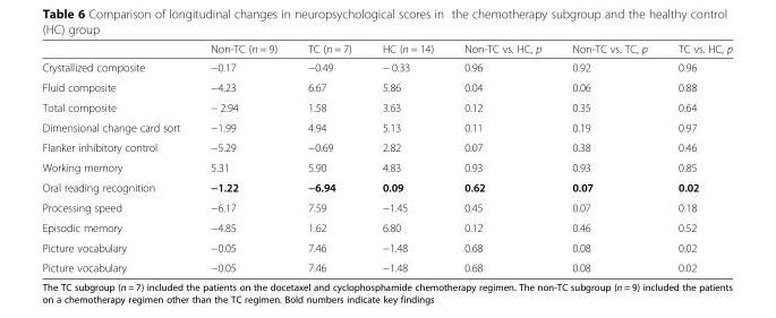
<table><thead><tr><td></td><td>Non-TC (n = 9)</td><td>TC (n = 7)</td><td>HC (n = 14)</td><td>Non-TC vs. HC, p</td><td>Non-TC vs. TC, p</td><td>TC vs. HC, p</td></tr></thead><tbody><tr><td>Crystallized composite</td><td>−0.17</td><td>−0.49</td><td>− 0.33</td><td>0.96</td><td>0.92</td><td>0.96</td></tr><tr><td>Fluid composite</td><td>−4.23</td><td>6.67</td><td>5.86</td><td>0.04</td><td>0.06</td><td>0.88</td></tr><tr><td>Total composite</td><td>− 2.94</td><td>1.58</td><td>3.63</td><td>0.12</td><td>0.35</td><td>0.64</td></tr><tr><td>Dimensional change card sort</td><td>−1.99</td><td>4.94</td><td>5.13</td><td>0.11</td><td>0.19</td><td>0.97</td></tr><tr><td>Flanker inhibitory control</td><td>−5.29</td><td>−0.69</td><td>2.82</td><td>0.07</td><td>0.38</td><td>0.46</td></tr><tr><td>Working memory</td><td>5.31</td><td>5.90</td><td>4.83</td><td>0.93</td><td>0.93</td><td>0.85</td></tr><tr><td>Oral reading recognition</td><td>−1.22</td><td>−6.94</td><td>0.09</td><td>0.62</td><td>0.07</td><td>0.02</td></tr><tr><td>Processing speed</td><td>−6.17</td><td>7.59</td><td>−1.45</td><td>0.45</td><td>0.07</td><td>0.18</td></tr><tr><td>Episodic memory</td><td>−4.85</td><td>1.62</td><td>6.80</td><td>0.12</td><td>0.46</td><td>0.52</td></tr><tr><td>Picture vocabulary</td><td>−0.05</td><td>7.46</td><td>−1.48</td><td>0.68</td><td>0.08</td><td>0.02</td></tr><tr><td>Picture vocabulary</td><td>−0.05</td><td>7.46</td><td>−1.48</td><td>0.68</td><td>0.08</td><td>0.02</td></tr></tbody></table>